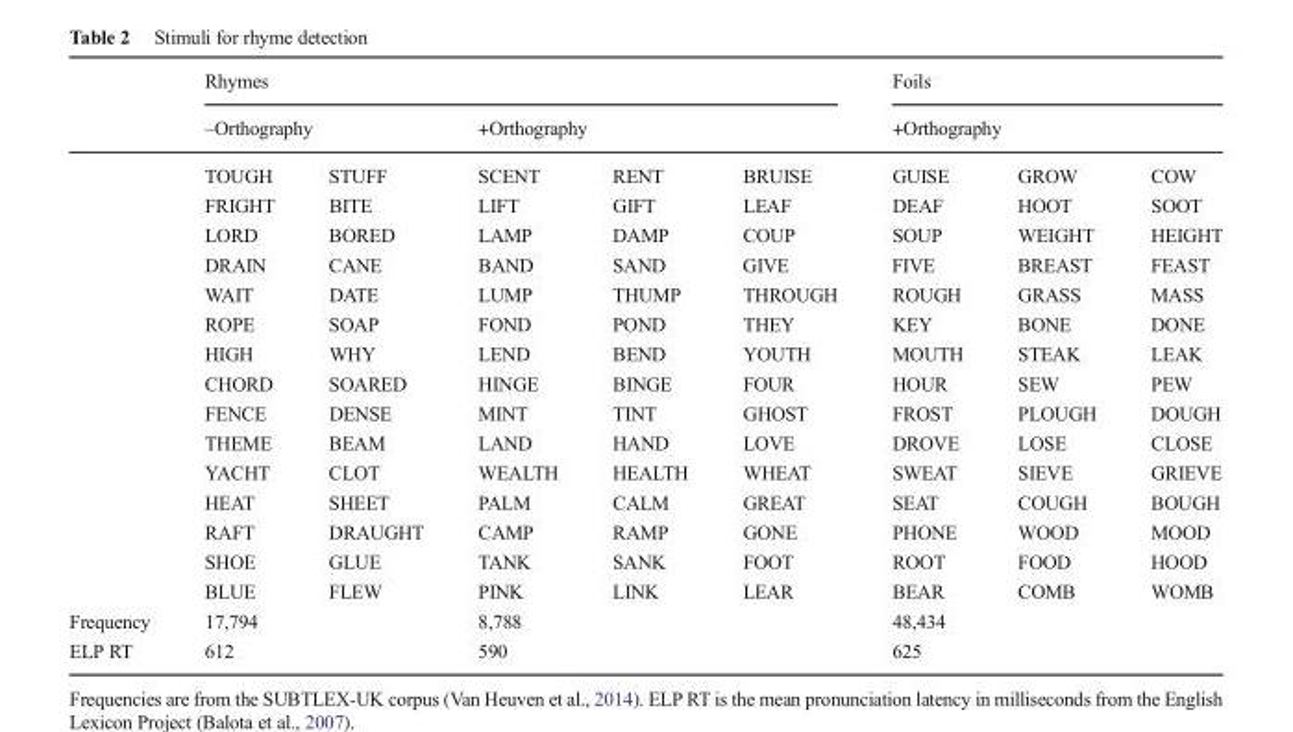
<table><thead><tr><td rowspan="3"></td><td colspan="5">Rhymes</td><td rowspan="2" colspan="3">Foils +Orthography</td></tr><tr><td colspan="2">–Orthography</td><td colspan="3">+Orthography</td></tr><tr><td>TOUGH</td><td>STUFF</td><td>SCENT</td><td>RENT</td><td>BRUISE</td><td>GUISE</td><td>GROW</td><td>COW</td></tr></thead><tbody><tr><td></td><td>FRIGHT</td><td>BITE</td><td>LIFT</td><td>GIFT</td><td>LEAF</td><td>DEAF</td><td>HOOT</td><td>SOOT</td></tr><tr><td></td><td>LORD</td><td>BORED</td><td>LAMP</td><td>DAMP</td><td>COUP</td><td>SOUP</td><td>WEIGHT</td><td>HEIGHT</td></tr><tr><td></td><td>DRAIN</td><td>CANE</td><td>BAND</td><td>SAND</td><td>GIVE</td><td>FIVE</td><td>BREAST</td><td>FEAST</td></tr><tr><td></td><td>WAIT</td><td>DATE</td><td>LUMP</td><td>THUMP</td><td>THROUGH</td><td>ROUGH</td><td>GRASS</td><td>MASS</td></tr><tr><td></td><td>ROPE</td><td>SOAP</td><td>FOND</td><td>POND</td><td>THEY</td><td>KEY</td><td>BONE</td><td>DONE</td></tr><tr><td></td><td>HIGH</td><td>WHY</td><td>LEND</td><td>BEND</td><td>YOUTH</td><td>MOUTH</td><td>STEAK</td><td>LEAK</td></tr><tr><td></td><td>CHORD</td><td>SOARED</td><td>HINGE</td><td>BINGE</td><td>FOUR</td><td>HOUR</td><td>SEW</td><td>PEW</td></tr><tr><td></td><td>FENCE</td><td>DENSE</td><td>MINT</td><td>TINT</td><td>GHOST</td><td>FROST</td><td>PLOUGH</td><td>DOUGH</td></tr><tr><td></td><td>THEME</td><td>BEAM</td><td>LAND</td><td>HAND</td><td>LOVE</td><td>DROVE</td><td>LOSE</td><td>CLOSE</td></tr><tr><td></td><td>YACHT</td><td>CLOT</td><td>WEALTH</td><td>HEALTH</td><td>WHEAT</td><td>SWEAT</td><td>SIEVE</td><td>GRIEVE</td></tr><tr><td></td><td>HEAT</td><td>SHEET</td><td>PALM</td><td>CALM</td><td>GREAT</td><td>SEAT</td><td>COUGH</td><td>BOUGH</td></tr><tr><td></td><td>RAFT</td><td>DRAUGHT</td><td>CAMP</td><td>RAMP</td><td>GONE</td><td>PHONE</td><td>WOOD</td><td>MOOD</td></tr><tr><td></td><td>SHOE</td><td>GLUE</td><td>TANK</td><td>SANK</td><td>FOOT</td><td>ROOT</td><td>FOOD</td><td>HOOD</td></tr><tr><td></td><td>BLUE</td><td>FLEW</td><td>PINK</td><td>LINK</td><td>LEAR</td><td>BEAR</td><td>COMB</td><td>WOMB</td></tr><tr><td>Frequency</td><td colspan="2">17,794</td><td colspan="3">8,788</td><td colspan="3">48,434</td></tr><tr><td>ELP RT</td><td colspan="2">612</td><td colspan="3">590</td><td colspan="3">625</td></tr></tbody></table>